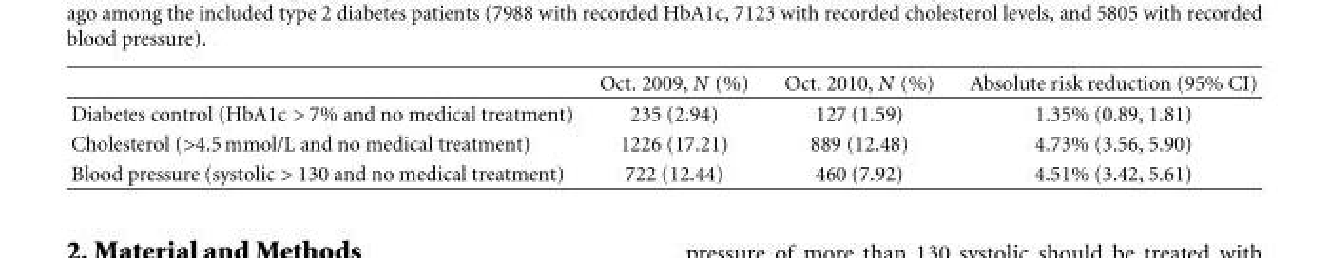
<table><thead><tr><td></td><td>Oct. 2009, N (%)</td><td>Oct. 2010, N (%)</td><td>Absolute risk reduction (95% CI)</td></tr></thead><tbody><tr><td>Diabetes control (HbA1c &gt; 7% and no medical treatment)</td><td>235 (2.94)</td><td>127 (1.59)</td><td>1.35% (0.89, 1.81)</td></tr><tr><td>Cholesterol (&gt;4.5 mmol/L and no medical treatment)</td><td>1226 (17.21)</td><td>889 (12.48)</td><td>4.73% (3.56, 5.90)</td></tr><tr><td>Blood pressure (systolic &gt; 130 and no medical treatment)</td><td>722 (12.44)</td><td>460 (7.92)</td><td>4.51% (3.42, 5.61)</td></tr></tbody></table>